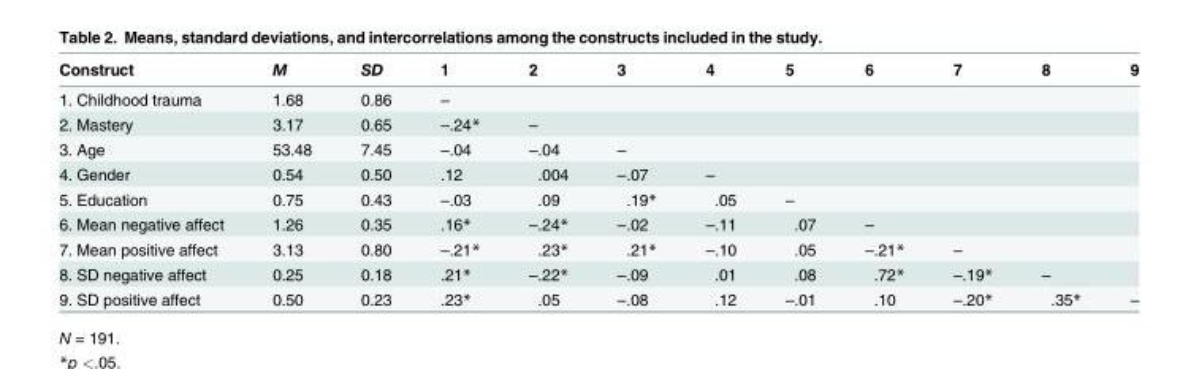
<table><thead><tr><td>Construct</td><td>M</td><td>SD</td><td>1</td><td>2</td><td>3</td><td>4</td><td>5</td><td>6</td><td>7</td><td>8</td><td>9</td></tr></thead><tbody><tr><td>1. Childhood trauma</td><td>1.68</td><td>0.86</td><td>–</td><td></td><td></td><td></td><td></td><td></td><td></td><td></td><td></td></tr><tr><td>2. Mastery</td><td>3.17</td><td>0.65</td><td>–.24*</td><td>–</td><td></td><td></td><td></td><td></td><td></td><td></td><td></td></tr><tr><td>3. Age</td><td>53.48</td><td>7.45</td><td>–.04</td><td>–.04</td><td>–</td><td></td><td></td><td></td><td></td><td></td><td></td></tr><tr><td>4. Gender</td><td>0.54</td><td>0.50</td><td>.12</td><td>.004</td><td>–.07</td><td>–</td><td></td><td></td><td></td><td></td><td></td></tr><tr><td>5. Education</td><td>0.75</td><td>0.43</td><td>–.03</td><td>.09</td><td>.19*</td><td>.05</td><td>–</td><td></td><td></td><td></td><td></td></tr><tr><td>6. Mean negative affect</td><td>1.26</td><td>0.35</td><td>.16*</td><td>–.24*</td><td>–.02</td><td>–.11</td><td>.07</td><td>–</td><td></td><td></td><td></td></tr><tr><td>7. Mean positive affect</td><td>3.13</td><td>0.80</td><td>–.21*</td><td>.23*</td><td>.21*</td><td>–.10</td><td>.05</td><td>–.21*</td><td>–</td><td></td><td></td></tr><tr><td>8. SD negative affect</td><td>0.25</td><td>0.18</td><td>.21*</td><td>–.22*</td><td>–.09</td><td>.01</td><td>.08</td><td>.72*</td><td>–.19*</td><td>–</td><td></td></tr><tr><td>9. SD positive affect</td><td>0.50</td><td>0.23</td><td>.23*</td><td>.05</td><td>–.08</td><td>.12</td><td>–.01</td><td>.10</td><td>–.20*</td><td>.35*</td><td>–</td></tr></tbody></table>